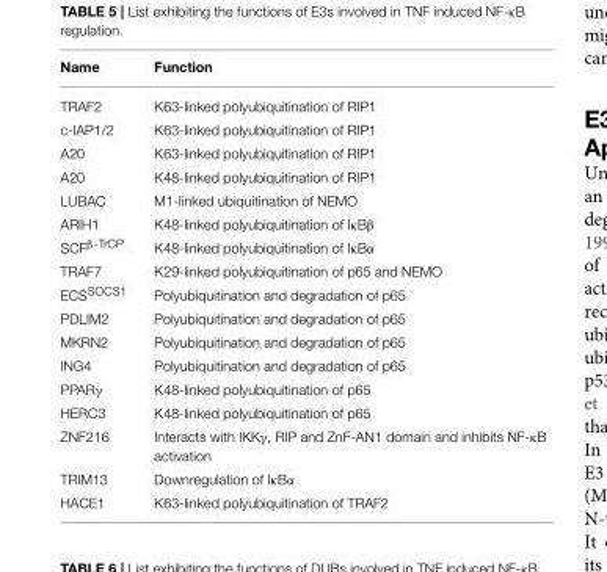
<table><thead><tr><td>Name</td><td>Function</td></tr></thead><tbody><tr><td>TRAF2</td><td>K63-linked polyubiquitination of RIP1</td></tr><tr><td>c-IAP1/2</td><td>K63-linked polyubiquitination of RIP1</td></tr><tr><td>A20</td><td>K63-linked polyubiquitination of RIP1</td></tr><tr><td>A20</td><td>K48-linked polyubiquitination of RIP1</td></tr><tr><td>LUBAC</td><td>M1-linked ubiquitination of NEMO</td></tr><tr><td>ARIH1</td><td>K48-linked polyubiquitination of IκBβ</td></tr><tr><td>SCF<sup>β-TrCP</sup></td><td>K48-linked polyubiquitination of IκBα</td></tr><tr><td>TRAF7</td><td>K29-linked polyubiquitination of p65 and NEMO</td></tr><tr><td>ECS<sup>SOCS1</sup></td><td>Polyubiquitination and degradation of p65</td></tr><tr><td>PDLIM2</td><td>Polyubiquitination and degradation of p65</td></tr><tr><td>MKRN2</td><td>Polyubiquitination and degradation of p65</td></tr><tr><td>ING4</td><td>Polyubiquitination and degradation of p65</td></tr><tr><td>PPARγ</td><td>K48-linked polyubiquitination of p65</td></tr><tr><td>HERC3</td><td>K48-linked polyubiquitination of p65</td></tr><tr><td>ZNF216</td><td>Interacts with IKKγ, RIP and ZnF-AN1 domain and inhibits NF-κB activation</td></tr><tr><td>TRIM13</td><td>Downregulation of IκBα</td></tr><tr><td>HACE1</td><td>K63-linked polyubiquitination of TRAF2</td></tr></tbody></table>